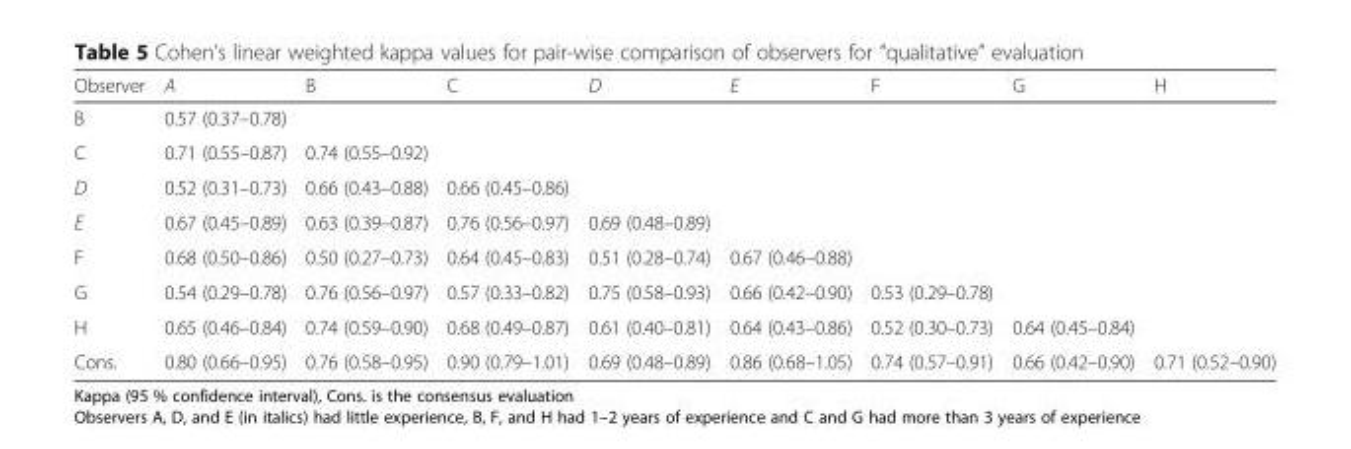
<table><thead><tr><td>Observer</td><td>A</td><td>B</td><td>C</td><td>D</td><td>E</td><td>F</td><td>G</td><td>H</td></tr></thead><tbody><tr><td>B</td><td>0.57 (0.37–0.78)</td><td></td><td></td><td></td><td></td><td></td><td></td><td></td></tr><tr><td>C</td><td>0.71 (0.55–0.87)</td><td>0.74 (0.55–0.92)</td><td></td><td></td><td></td><td></td><td></td><td></td></tr><tr><td>D</td><td>0.52 (0.31–0.73)</td><td>0.66 (0.43–0.88)</td><td>0.66 (0.45–0.86)</td><td></td><td></td><td></td><td></td><td></td></tr><tr><td>E</td><td>0.67 (0.45–0.89)</td><td>0.63 (0.39–0.87)</td><td>0.76 (0.56–0.97)</td><td>0.69 (0.48–0.89)</td><td></td><td></td><td></td><td></td></tr><tr><td>F</td><td>0.68 (0.50–0.86)</td><td>0.50 (0.27–0.73)</td><td>0.64 (0.45–0.83)</td><td>0.51 (0.28–0.74)</td><td>0.67 (0.46–0.88)</td><td></td><td></td><td></td></tr><tr><td>G</td><td>0.54 (0.29–0.78)</td><td>0.76 (0.56–0.97)</td><td>0.57 (0.33–0.82)</td><td>0.75 (0.58–0.93)</td><td>0.66 (0.42–0.90)</td><td>0.53 (0.29–0.78)</td><td></td><td></td></tr><tr><td>H</td><td>0.65 (0.46–0.84)</td><td>0.74 (0.59–0.90)</td><td>0.68 (0.49–0.87)</td><td>0.61 (0.40–0.81)</td><td>0.64 (0.43–0.86)</td><td>0.52 (0.30–0.73)</td><td>0.64 (0.45–0.84)</td><td></td></tr><tr><td>Cons.</td><td>0.80 (0.66–0.95)</td><td>0.76 (0.58–0.95)</td><td>0.90 (0.79–1.01)</td><td>0.69 (0.48–0.89)</td><td>0.86 (0.68–1.05)</td><td>0.74 (0.57–0.91)</td><td>0.66 (0.42–0.90)</td><td>0.71 (0.52–0.90)</td></tr></tbody></table>